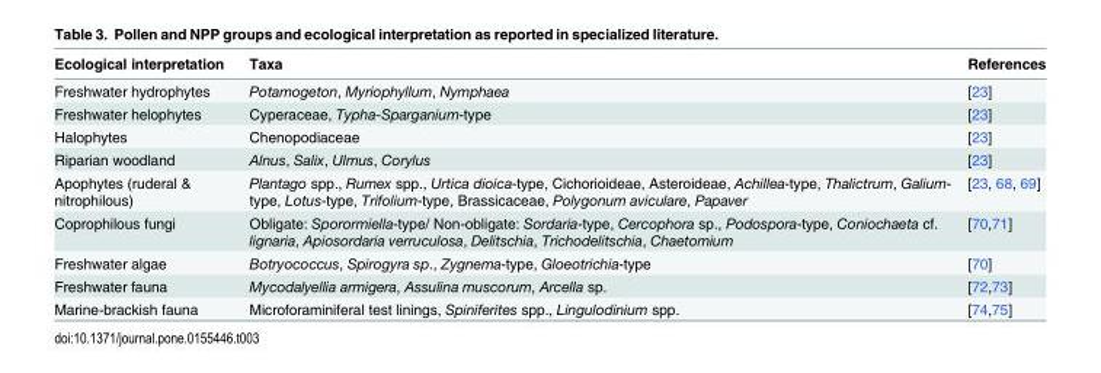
<table><thead><tr><td>Ecological interpretation</td><td>Taxa</td><td>References</td></tr></thead><tbody><tr><td>Freshwater hydrophytes</td><td>Potamogeton, Myriophyllum, Nymphaea</td><td>[23]</td></tr><tr><td>Freshwater helophytes</td><td>Cyperaceae, Typha-Sparganium-type</td><td>[23]</td></tr><tr><td>Halophytes</td><td>Chenopodiaceae</td><td>[23]</td></tr><tr><td>Riparian woodland</td><td>Alnus, Salix, Ulmus, Corylus</td><td>[23]</td></tr><tr><td>Apophytes (ruderal &amp; nitrophilous)</td><td>Plantago spp., Rumex spp., Urtica dioica-type, Cichorioideae, Asteroideae, Achillea-type, Thalictrum, Galium- type, Lotus-type, Trifolium-type, Brassicaceae, Polygonum aviculare, Papaver</td><td>[23, 68, 69]</td></tr><tr><td>Coprophilous fungi</td><td>Obligate: Sporormiella-type/ Non-obligate: Sordaria-type, Cercophora sp., Podospora-type, Coniochaeta cf. lignaria, Apiosordaria verruculosa, Delitschia, Trichodelitschia, Chaetomium</td><td>[70,71]</td></tr><tr><td>Freshwater algae</td><td>Botryococcus, Spirogyra sp., Zygnema-type, Gloeotrichia-type</td><td>[70]</td></tr><tr><td>Freshwater fauna</td><td>Mycodalyellia armigera, Assulina muscorum, Arcella sp.</td><td>[72,73]</td></tr><tr><td>Marine-brackish fauna</td><td>Microforaminiferal test linings, Spiniferites spp., Lingulodinium spp.</td><td>[74,75]</td></tr></tbody></table>